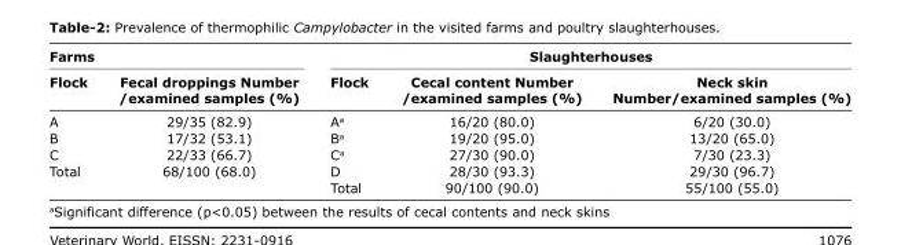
<table><thead><tr><td colspan="2">Farms</td><td colspan="3">Slaughterhouses</td></tr><tr><td>Flock</td><td>Fecal droppings Number /examined samples (%)</td><td>Flock</td><td>Cecal content Number /examined samples (%)</td><td>Neck skin Number/examined samples (%)</td></tr></thead><tbody><tr><td>A</td><td>29/35 (82.9)</td><td>A<sup>a</sup></td><td>16/20 (80.0)</td><td>6/20 (30.0)</td></tr><tr><td>B</td><td>17/32 (53.1)</td><td>B<sup>a</sup></td><td>19/20 (95.0)</td><td>13/20 (65.0)</td></tr><tr><td>C</td><td>22/33 (66.7)</td><td>C<sup>a</sup></td><td>27/30 (90.0)</td><td>7/30 (23.3)</td></tr><tr><td rowspan="2">Total</td><td>68/100 (68.0)</td><td>D</td><td>28/30 (93.3)</td><td>29/30 (96.7)</td></tr><tr><td></td><td>Total</td><td>90/100 (90.0)</td><td>55/100 (55.0)</td></tr></tbody></table>